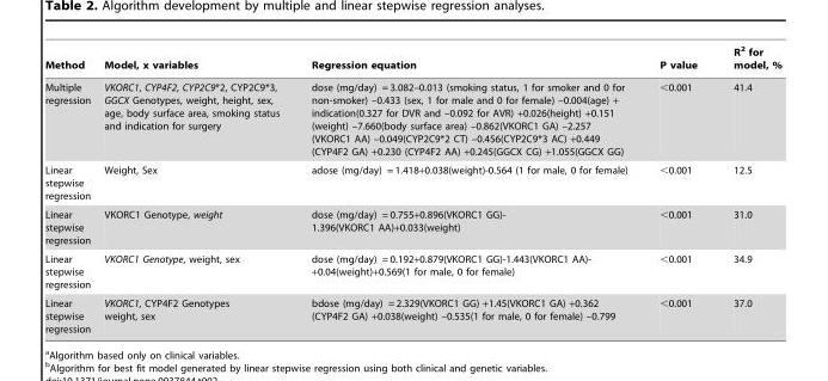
<table><thead><tr><td>Method</td><td>Model, x variables</td><td>Regression equation</td><td>P value</td><td>R<sup>2</sup> for model, %</td></tr></thead><tbody><tr><td>Multiple regression</td><td>VKORC1, CYP4F2, CYP2C9*2, CYP2C9*3, GGCX Genotypes, weight, height, sex, age, body surface area, smoking status and indication for surgery</td><td>dose (mg/day) = 3.082–0.013 (smoking status, 1 for smoker and 0 for non-smoker) –0.433 (sex, 1 for male and 0 for female) –0.004(age) + indication(0.327 for DVR and –0.092 for AVR) +0.026(height) +0.151 (weight) –7.660(body surface area) –0.862(VKORC1 GA) –2.257 (VKORC1 AA) –0.049(CYP2C9*2 CT) –0.456(CYP2C9*3 AC) +0.449 (CYP4F2 GA) +0.230 (CYP4F2 AA) +0.245(GGCX CG) +1.055(GGCX GG)</td><td>&lt;0.001</td><td>41.4</td></tr><tr><td>Linear stepwise regression</td><td>Weight, Sex</td><td>adose (mg/day) = 1.418+0.038(weight)-0.564 (1 for male, 0 for female)</td><td>&lt;0.001</td><td>12.5</td></tr><tr><td>Linear stepwise regression</td><td>VKORC1 Genotype, weight</td><td>dose (mg/day) = 0.755+0.896(VKORC1 GG)- 1.396(VKORC1 AA)+0.033(weight)</td><td>&lt;0.001</td><td>31.0</td></tr><tr><td>Linear stepwise regression</td><td>VKORC1 Genotype, weight, sex</td><td>dose (mg/day) = 0.192+0.879(VKORC1 GG)-1.443(VKORC1 AA)- +0.04(weight)+0.569(1 for male, 0 for female)</td><td>&lt;0.001</td><td>34.9</td></tr><tr><td>Linear stepwise regression</td><td>VKORC1, CYP4F2 Genotypes weight, sex</td><td>bdose (mg/day) = 2.329(VKORC1 GG) +1.45(VKORC1 GA) +0.362 (CYP4F2 GA) +0.038(weight) –0.535(1 for male, 0 for female) –0.799</td><td>&lt;0.001</td><td>37.0</td></tr></tbody></table>